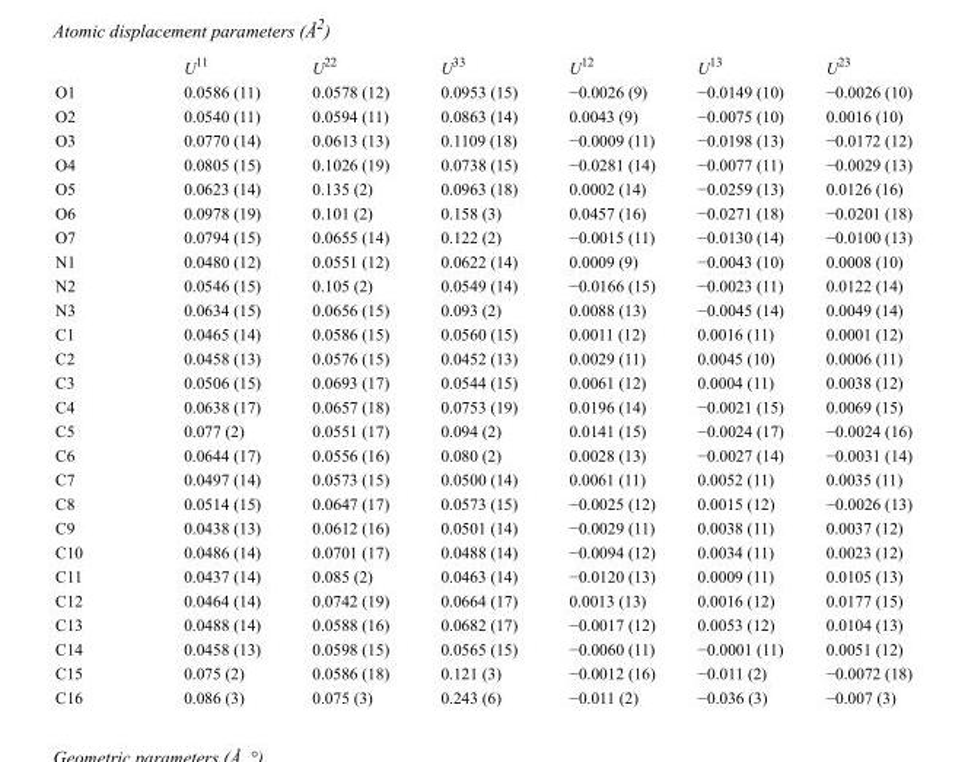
<table><thead><tr><td></td><td>U<sup>11</sup></td><td>U<sup>22</sup></td><td>U<sup>33</sup></td><td>U<sup>12</sup></td><td>U<sup>13</sup></td><td>U<sup>23</sup></td></tr></thead><tbody><tr><td>O1</td><td>0.0586 (11)</td><td>0.0578 (12)</td><td>0.0953 (15)</td><td>−0.0026 (9)</td><td>−0.0149 (10)</td><td>−0.0026 (10)</td></tr><tr><td>O2</td><td>0.0540 (11)</td><td>0.0594 (11)</td><td>0.0863 (14)</td><td>0.0043 (9)</td><td>−0.0075 (10)</td><td>0.0016 (10)</td></tr><tr><td>O3</td><td>0.0770 (14)</td><td>0.0613 (13)</td><td>0.1109 (18)</td><td>−0.0009 (11)</td><td>−0.0198 (13)</td><td>−0.0172 (12)</td></tr><tr><td>O4</td><td>0.0805 (15)</td><td>0.1026 (19)</td><td>0.0738 (15)</td><td>−0.0281 (14)</td><td>−0.0077 (11)</td><td>−0.0029 (13)</td></tr><tr><td>O5</td><td>0.0623 (14)</td><td>0.135 (2)</td><td>0.0963 (18)</td><td>0.0002 (14)</td><td>−0.0259 (13)</td><td>0.0126 (16)</td></tr><tr><td>O6</td><td>0.0978 (19)</td><td>0.101 (2)</td><td>0.158 (3)</td><td>0.0457 (16)</td><td>−0.0271 (18)</td><td>−0.0201 (18)</td></tr><tr><td>O7</td><td>0.0794 (15)</td><td>0.0655 (14)</td><td>0.122 (2)</td><td>−0.0015 (11)</td><td>−0.0130 (14)</td><td>−0.0100 (13)</td></tr><tr><td>N1</td><td>0.0480 (12)</td><td>0.0551 (12)</td><td>0.0622 (14)</td><td>0.0009 (9)</td><td>−0.0043 (10)</td><td>0.0008 (10)</td></tr><tr><td>N2</td><td>0.0546 (15)</td><td>0.105 (2)</td><td>0.0549 (14)</td><td>−0.0166 (15)</td><td>−0.0023 (11)</td><td>0.0122 (14)</td></tr><tr><td>N3</td><td>0.0634 (15)</td><td>0.0656 (15)</td><td>0.093 (2)</td><td>0.0088 (13)</td><td>−0.0045 (14)</td><td>0.0049 (14)</td></tr><tr><td>C1</td><td>0.0465 (14)</td><td>0.0586 (15)</td><td>0.0560 (15)</td><td>0.0011 (12)</td><td>0.0016 (11)</td><td>0.0001 (12)</td></tr><tr><td>C2</td><td>0.0458 (13)</td><td>0.0576 (15)</td><td>0.0452 (13)</td><td>0.0029 (11)</td><td>0.0045 (10)</td><td>0.0006 (11)</td></tr><tr><td>C3</td><td>0.0506 (15)</td><td>0.0693 (17)</td><td>0.0544 (15)</td><td>0.0061 (12)</td><td>0.0004 (11)</td><td>0.0038 (12)</td></tr><tr><td>C4</td><td>0.0638 (17)</td><td>0.0657 (18)</td><td>0.0753 (19)</td><td>0.0196 (14)</td><td>−0.0021 (15)</td><td>0.0069 (15)</td></tr><tr><td>C5</td><td>0.077 (2)</td><td>0.0551 (17)</td><td>0.094 (2)</td><td>0.0141 (15)</td><td>−0.0024 (17)</td><td>−0.0024 (16)</td></tr><tr><td>C6</td><td>0.0644 (17)</td><td>0.0556 (16)</td><td>0.080 (2)</td><td>0.0028 (13)</td><td>−0.0027 (14)</td><td>−0.0031 (14)</td></tr><tr><td>C7</td><td>0.0497 (14)</td><td>0.0573 (15)</td><td>0.0500 (14)</td><td>0.0061 (11)</td><td>0.0052 (11)</td><td>0.0035 (11)</td></tr><tr><td>C8</td><td>0.0514 (15)</td><td>0.0647 (17)</td><td>0.0573 (15)</td><td>−0.0025 (12)</td><td>0.0015 (12)</td><td>−0.0026 (13)</td></tr><tr><td>C9</td><td>0.0438 (13)</td><td>0.0612 (16)</td><td>0.0501 (14)</td><td>−0.0029 (11)</td><td>0.0038 (11)</td><td>0.0037 (12)</td></tr><tr><td>C10</td><td>0.0486 (14)</td><td>0.0701 (17)</td><td>0.0488 (14)</td><td>−0.0094 (12)</td><td>0.0034 (11)</td><td>0.0023 (12)</td></tr><tr><td>C11</td><td>0.0437 (14)</td><td>0.085 (2)</td><td>0.0463 (14)</td><td>−0.0120 (13)</td><td>0.0009 (11)</td><td>0.0105 (13)</td></tr><tr><td>C12</td><td>0.0464 (14)</td><td>0.0742 (19)</td><td>0.0664 (17)</td><td>0.0013 (13)</td><td>0.0016 (12)</td><td>0.0177 (15)</td></tr><tr><td>C13</td><td>0.0488 (14)</td><td>0.0588 (16)</td><td>0.0682 (17)</td><td>−0.0017 (12)</td><td>0.0053 (12)</td><td>0.0104 (13)</td></tr><tr><td>C14</td><td>0.0458 (13)</td><td>0.0598 (15)</td><td>0.0565 (15)</td><td>−0.0060 (11)</td><td>−0.0001 (11)</td><td>0.0051 (12)</td></tr><tr><td>C15</td><td>0.075 (2)</td><td>0.0586 (18)</td><td>0.121 (3)</td><td>−0.0012 (16)</td><td>−0.011 (2)</td><td>−0.0072 (18)</td></tr><tr><td>C16</td><td>0.086 (3)</td><td>0.075 (3)</td><td>0.243 (6)</td><td>−0.011 (2)</td><td>−0.036 (3)</td><td>−0.007 (3)</td></tr></tbody></table>